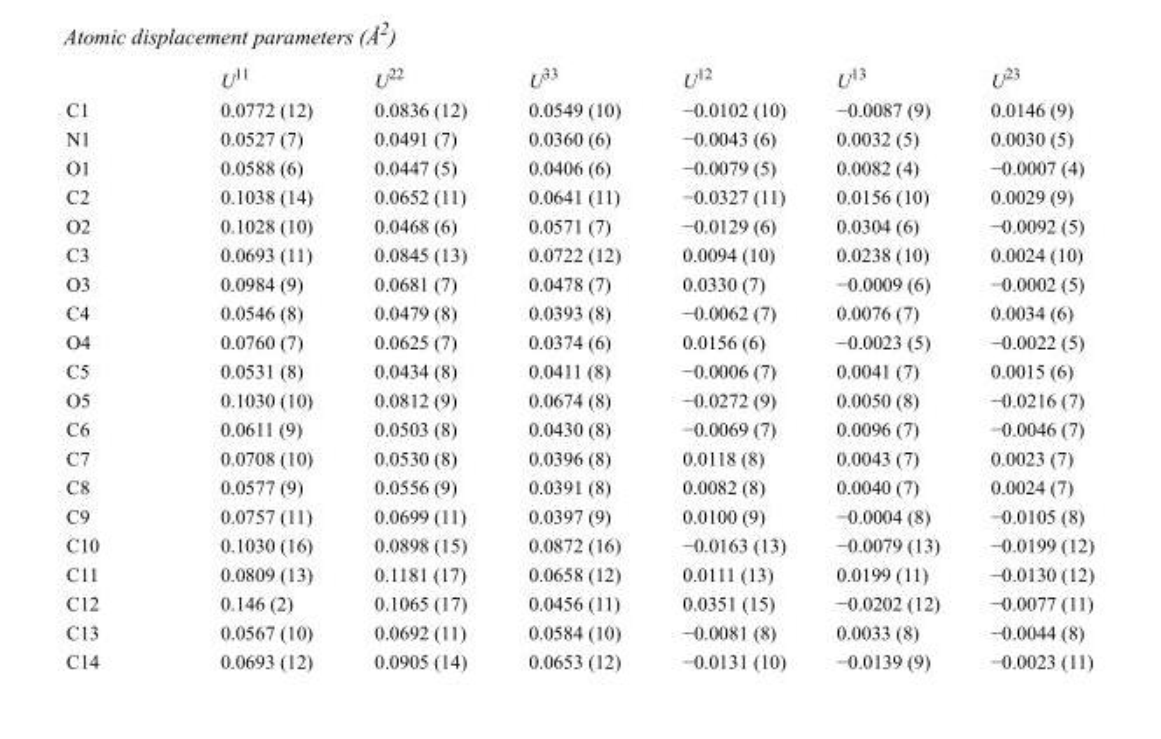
<table><thead><tr><td></td><td>U<sup>11</sup></td><td>U<sup>22</sup></td><td>U<sup>33</sup></td><td>U<sup>12</sup></td><td>U<sup>13</sup></td><td>U<sup>23</sup></td></tr></thead><tbody><tr><td>C1</td><td>0.0772 (12)</td><td>0.0836 (12)</td><td>0.0549 (10)</td><td>−0.0102 (10)</td><td>−0.0087 (9)</td><td>0.0146 (9)</td></tr><tr><td>N1</td><td>0.0527 (7)</td><td>0.0491 (7)</td><td>0.0360 (6)</td><td>−0.0043 (6)</td><td>0.0032 (5)</td><td>0.0030 (5)</td></tr><tr><td>O1</td><td>0.0588 (6)</td><td>0.0447 (5)</td><td>0.0406 (6)</td><td>−0.0079 (5)</td><td>0.0082 (4)</td><td>−0.0007 (4)</td></tr><tr><td>C2</td><td>0.1038 (14)</td><td>0.0652 (11)</td><td>0.0641 (11)</td><td>−0.0327 (11)</td><td>0.0156 (10)</td><td>0.0029 (9)</td></tr><tr><td>O2</td><td>0.1028 (10)</td><td>0.0468 (6)</td><td>0.0571 (7)</td><td>−0.0129 (6)</td><td>0.0304 (6)</td><td>−0.0092 (5)</td></tr><tr><td>C3</td><td>0.0693 (11)</td><td>0.0845 (13)</td><td>0.0722 (12)</td><td>0.0094 (10)</td><td>0.0238 (10)</td><td>0.0024 (10)</td></tr><tr><td>O3</td><td>0.0984 (9)</td><td>0.0681 (7)</td><td>0.0478 (7)</td><td>0.0330 (7)</td><td>−0.0009 (6)</td><td>−0.0002 (5)</td></tr><tr><td>C4</td><td>0.0546 (8)</td><td>0.0479 (8)</td><td>0.0393 (8)</td><td>−0.0062 (7)</td><td>0.0076 (7)</td><td>0.0034 (6)</td></tr><tr><td>O4</td><td>0.0760 (7)</td><td>0.0625 (7)</td><td>0.0374 (6)</td><td>0.0156 (6)</td><td>−0.0023 (5)</td><td>−0.0022 (5)</td></tr><tr><td>C5</td><td>0.0531 (8)</td><td>0.0434 (8)</td><td>0.0411 (8)</td><td>−0.0006 (7)</td><td>0.0041 (7)</td><td>0.0015 (6)</td></tr><tr><td>O5</td><td>0.1030 (10)</td><td>0.0812 (9)</td><td>0.0674 (8)</td><td>−0.0272 (9)</td><td>0.0050 (8)</td><td>−0.0216 (7)</td></tr><tr><td>C6</td><td>0.0611 (9)</td><td>0.0503 (8)</td><td>0.0430 (8)</td><td>−0.0069 (7)</td><td>0.0096 (7)</td><td>−0.0046 (7)</td></tr><tr><td>C7</td><td>0.0708 (10)</td><td>0.0530 (8)</td><td>0.0396 (8)</td><td>0.0118 (8)</td><td>0.0043 (7)</td><td>0.0023 (7)</td></tr><tr><td>C8</td><td>0.0577 (9)</td><td>0.0556 (9)</td><td>0.0391 (8)</td><td>0.0082 (8)</td><td>0.0040 (7)</td><td>0.0024 (7)</td></tr><tr><td>C9</td><td>0.0757 (11)</td><td>0.0699 (11)</td><td>0.0397 (9)</td><td>0.0100 (9)</td><td>−0.0004 (8)</td><td>−0.0105 (8)</td></tr><tr><td>C10</td><td>0.1030 (16)</td><td>0.0898 (15)</td><td>0.0872 (16)</td><td>−0.0163 (13)</td><td>−0.0079 (13)</td><td>−0.0199 (12)</td></tr><tr><td>C11</td><td>0.0809 (13)</td><td>0.1181 (17)</td><td>0.0658 (12)</td><td>0.0111 (13)</td><td>0.0199 (11)</td><td>−0.0130 (12)</td></tr><tr><td>C12</td><td>0.146 (2)</td><td>0.1065 (17)</td><td>0.0456 (11)</td><td>0.0351 (15)</td><td>−0.0202 (12)</td><td>−0.0077 (11)</td></tr><tr><td>C13</td><td>0.0567 (10)</td><td>0.0692 (11)</td><td>0.0584 (10)</td><td>−0.0081 (8)</td><td>0.0033 (8)</td><td>−0.0044 (8)</td></tr><tr><td>C14</td><td>0.0693 (12)</td><td>0.0905 (14)</td><td>0.0653 (12)</td><td>−0.0131 (10)</td><td>−0.0139 (9)</td><td>−0.0023 (11)</td></tr></tbody></table>